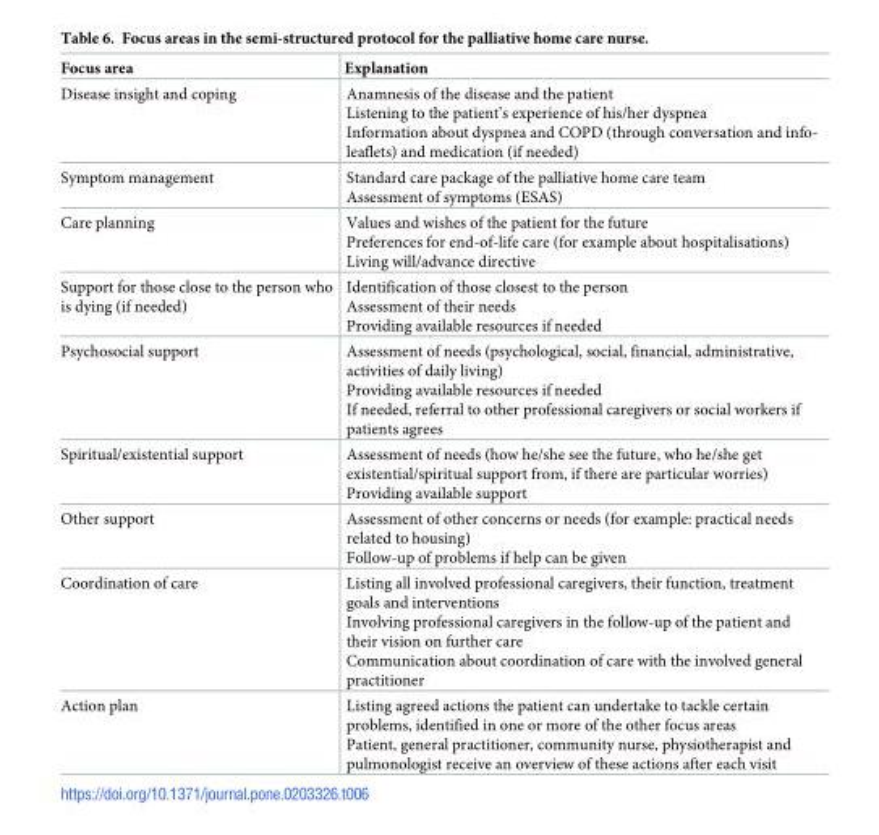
<table><thead><tr><td>Focus area</td><td>Explanation</td></tr></thead><tbody><tr><td>Disease insight and coping</td><td>Anamnesis of the disease and the patient Listening to the patient’s experience of his/her dyspnea Information about dyspnea and COPD (through conversation and info- leaflets) and medication (if needed)</td></tr><tr><td>Symptom management</td><td>Standard care package of the palliative home care team Assessment of symptoms (ESAS)</td></tr><tr><td>Care planning</td><td>Values and wishes of the patient for the future Preferences for end-of-life care (for example about hospitalisations) Living will/advance directive</td></tr><tr><td>Support for those close to the person who is dying (if needed)</td><td>Identification of those closest to the person Assessment of their needs Providing available resources if needed</td></tr><tr><td>Psychosocial support</td><td>Assessment of needs (psychological, social, financial, administrative, activities of daily living) Providing available resources if needed If needed, referral to other professional caregivers or social workers if patients agrees</td></tr><tr><td>Spiritual/existential support</td><td>Assessment of needs (how he/she see the future, who he/she get existential/spiritual support from, if there are particular worries) Providing available support</td></tr><tr><td>Other support</td><td>Assessment of other concerns or needs (for example: practical needs related to housing) Follow-up of problems if help can be given</td></tr><tr><td>Coordination of care</td><td>Listing all involved professional caregivers, their function, treatment goals and interventions Involving professional caregivers in the follow-up of the patient and their vision on further care Communication about coordination of care with the involved general practitioner</td></tr><tr><td>Action plan</td><td>Listing agreed actions the patient can undertake to tackle certain problems, identified in one or more of the other focus areas Patient, general practitioner, community nurse, physiotherapist and pulmonologist receive an overview of these actions after each visit</td></tr></tbody></table>